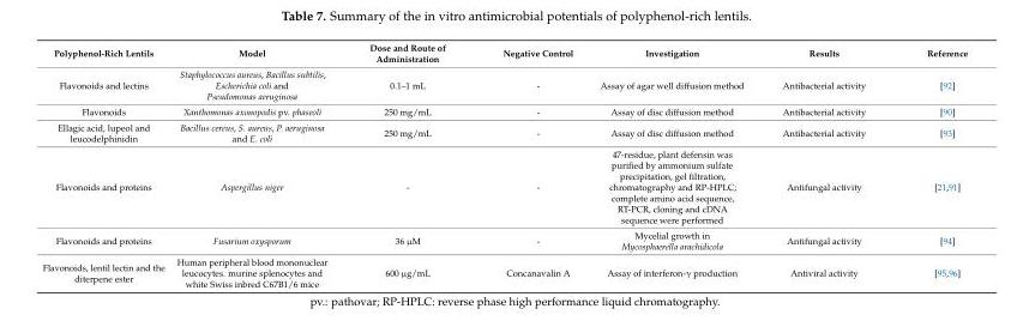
<table><thead><tr><td>Polyphenol-Rich Lentils</td><td>Model</td><td>Dose and Route of Administration</td><td>Negative Control</td><td>Investigation</td><td>Results</td><td>Reference</td></tr></thead><tbody><tr><td>Flavonoids and lectins</td><td>Staphylococcus aureus, Bacillus subtilis, Escherichia coli and Pseudomonas aeruginosa</td><td>0.1–1 mL</td><td>-</td><td>Assay of agar well diffusion method</td><td>Antibacterial activity</td><td>[92]</td></tr><tr><td>Flavonoids</td><td>Xanthomonas axonopodis pv. phaseoli</td><td>250 mg/mL</td><td>-</td><td>Assay of disc diffusion method</td><td>Antibacterial activity</td><td>[90]</td></tr><tr><td>Ellagic acid, lupeol and leucodelphinidin</td><td>Bacillus cereus, S. aureus, P. aeruginosa and E. coli</td><td>250 mg/mL</td><td>-</td><td>Assay of disc diffusion method</td><td>Antibacterial activity</td><td>[93]</td></tr><tr><td>Flavonoids and proteins</td><td>Aspergillus niger</td><td>-</td><td>-</td><td>47-residue, plant defensin was purified by ammonium sulfate precipitation, gel filtration, chromatography and RP-HPLC; complete amino acid sequence, RT-PCR, cloning and cDNA sequence were performed</td><td>Antifungal activity</td><td>[21,91]</td></tr><tr><td>Flavonoids and proteins</td><td>Fusarium oxysporum</td><td>36 µM</td><td>-</td><td>Mycelial growth in Mycosphaerella arachidicola</td><td>Antifungal activity</td><td>[94]</td></tr><tr><td>Flavonoids, lentil lectin and the diterpene ester</td><td>Human peripheral blood mononuclear leucocytes. murine splenocytes and white Swiss inbred C67B1/6 mice</td><td>600 µg/mL</td><td>Concanavalin A</td><td>Assay of interferon-γ production</td><td>Antiviral activity</td><td>[95,96]</td></tr></tbody></table>